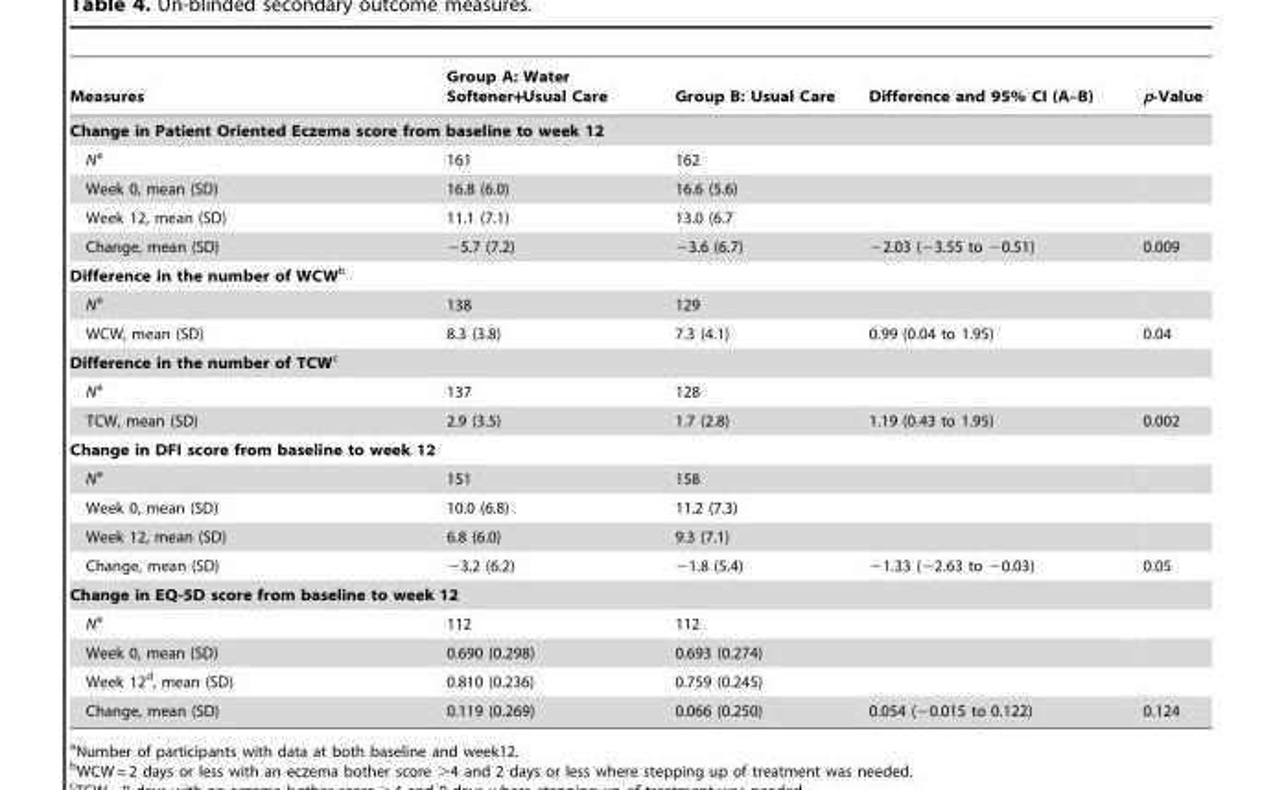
<table><thead><tr><td>Measures</td><td>Group A: Water Softener+Usual Care</td><td>Group B: Usual Care</td><td>Difference and 95% CI (A–B)</td><td>p-Value</td></tr></thead><tbody><tr><td colspan="5">Change in Patient Oriented Eczema score from baseline to week 12</td></tr><tr><td>Na</td><td>161</td><td>162</td><td></td><td></td></tr><tr><td>Week 0, mean (SD)</td><td>16.8 (6.0)</td><td>16.6 (5.6)</td><td></td><td></td></tr><tr><td>Week 12, mean (SD)</td><td>11.1 (7.1)</td><td>13.0 (6.7</td><td></td><td></td></tr><tr><td>Change, mean (SD)</td><td>−5.7 (7.2)</td><td>−3.6 (6.7)</td><td>−2.03 (−3.55 to −0.51)</td><td>0.009</td></tr><tr><td colspan="5">Difference in the number of WCWb</td></tr><tr><td>Na</td><td>138</td><td>129</td><td></td><td></td></tr><tr><td>WCW, mean (SD)</td><td>8.3 (3.8)</td><td>7.3 (4.1)</td><td>0.99 (0.04 to 1.95)</td><td>0.04</td></tr><tr><td colspan="5">Difference in the number of TCWc</td></tr><tr><td>Na</td><td>137</td><td>128</td><td></td><td></td></tr><tr><td>TCW, mean (SD)</td><td>2.9 (3.5)</td><td>1.7 (2.8)</td><td>1.19 (0.43 to 1.95)</td><td>0.002</td></tr><tr><td colspan="5">Change in DFI score from baseline to week 12</td></tr><tr><td>Na</td><td>151</td><td>158</td><td></td><td></td></tr><tr><td>Week 0, mean (SD)</td><td>10.0 (6.8)</td><td>11.2 (7.3)</td><td></td><td></td></tr><tr><td>Week 12, mean (SD)</td><td>6.8 (6.0)</td><td>9.3 (7.1)</td><td></td><td></td></tr><tr><td>Change, mean (SD)</td><td>−3.2 (6.2)</td><td>−1.8 (5.4)</td><td>−1.33 (−2.63 to −0.03)</td><td>0.05</td></tr><tr><td colspan="5">Change in EQ-5D score from baseline to week 12</td></tr><tr><td>Na</td><td>112</td><td>112</td><td></td><td></td></tr><tr><td>Week 0, mean (SD)</td><td>0.690 (0.298)</td><td>0.693 (0.274)</td><td></td><td></td></tr><tr><td>Week 12<sup>d</sup>, mean (SD)</td><td>0.810 (0.236)</td><td>0.759 (0.245)</td><td></td><td></td></tr><tr><td>Change, mean (SD)</td><td>0.119 (0.269)</td><td>0.066 (0.250)</td><td>0.054 (−0.015 to 0.122)</td><td>0.124</td></tr></tbody></table>